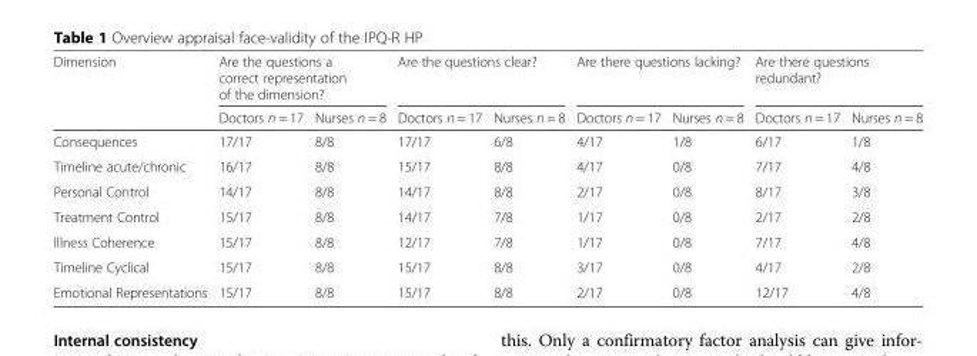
<table><thead><tr><td rowspan="2">Dimension</td><td colspan="2">Are the questions a correct representation of the dimension?</td><td colspan="2">Are the questions clear?</td><td colspan="2">Are there questions lacking?</td><td colspan="2">Are there questions redundant?</td></tr><tr><td>Doctors n = 17</td><td>Nurses n = 8</td><td>Doctors n = 17</td><td>Nurses n = 8</td><td>Doctors n = 17</td><td>Nurses n = 8</td><td>Doctors n = 17</td><td>Nurses n = 8</td></tr></thead><tbody><tr><td>Consequences</td><td>17/17</td><td>8/8</td><td>17/17</td><td>6/8</td><td>4/17</td><td>1/8</td><td>6/17</td><td>1/8</td></tr><tr><td>Timeline acute/chronic</td><td>16/17</td><td>8/8</td><td>15/17</td><td>8/8</td><td>4/17</td><td>0/8</td><td>7/17</td><td>4/8</td></tr><tr><td>Personal Control</td><td>14/17</td><td>8/8</td><td>14/17</td><td>8/8</td><td>2/17</td><td>0/8</td><td>8/17</td><td>3/8</td></tr><tr><td>Treatment Control</td><td>15/17</td><td>8/8</td><td>14/17</td><td>7/8</td><td>1/17</td><td>0/8</td><td>2/17</td><td>2/8</td></tr><tr><td>Illness Coherence</td><td>15/17</td><td>8/8</td><td>12/17</td><td>7/8</td><td>1/17</td><td>0/8</td><td>7/17</td><td>4/8</td></tr><tr><td>Timeline Cyclical</td><td>15/17</td><td>8/8</td><td>15/17</td><td>8/8</td><td>3/17</td><td>0/8</td><td>4/17</td><td>2/8</td></tr><tr><td>Emotional Representations</td><td>15/17</td><td>8/8</td><td>15/17</td><td>8/8</td><td>2/17</td><td>0/8</td><td>12/17</td><td>4/8</td></tr></tbody></table>